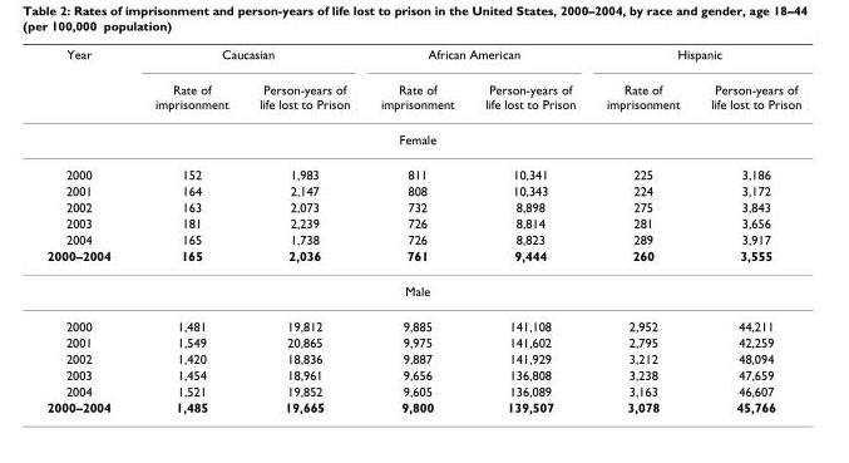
<table><thead><tr><td rowspan="2">Year</td><td colspan="2">Caucasian</td><td colspan="2">African American</td><td colspan="2">Hispanic</td></tr><tr><td>Rate of imprisonment</td><td>Person-years of life lost to Prison</td><td>Rate of imprisonment</td><td>Person-years of life lost to Prison</td><td>Rate of imprisonment</td><td>Person-years of life lost to Prison</td></tr></thead><tbody><tr><td colspan="7">Female</td></tr><tr><td>2000</td><td>152</td><td>1,983</td><td>811</td><td>10,341</td><td>225</td><td>3,186</td></tr><tr><td>2001</td><td>164</td><td>2,147</td><td>808</td><td>10,343</td><td>224</td><td>3,172</td></tr><tr><td>2002</td><td>163</td><td>2,073</td><td>732</td><td>8,898</td><td>275</td><td>3,843</td></tr><tr><td>2003</td><td>181</td><td>2,239</td><td>726</td><td>8,814</td><td>281</td><td>3,656</td></tr><tr><td>2004</td><td>165</td><td>1,738</td><td>726</td><td>8,823</td><td>289</td><td>3,917</td></tr><tr><td>2000–2004</td><td>165</td><td>2,036</td><td>761</td><td>9,444</td><td>260</td><td>3,555</td></tr><tr><td colspan="7">Male</td></tr><tr><td>2000</td><td>1,481</td><td>19,812</td><td>9,885</td><td>141,108</td><td>2,952</td><td>44,211</td></tr><tr><td>2001</td><td>1,549</td><td>20,865</td><td>9,975</td><td>141,602</td><td>2,795</td><td>42,259</td></tr><tr><td>2002</td><td>1,420</td><td>18,836</td><td>9,887</td><td>141,929</td><td>3,212</td><td>48,094</td></tr><tr><td>2003</td><td>1,454</td><td>18,961</td><td>9,656</td><td>136,808</td><td>3,238</td><td>47,659</td></tr><tr><td>2004</td><td>1,521</td><td>19,852</td><td>9,605</td><td>136,089</td><td>3,163</td><td>46,607</td></tr><tr><td>2000–2004</td><td>1,485</td><td>19,665</td><td>9,800</td><td>139,507</td><td>3,078</td><td>45,766</td></tr></tbody></table>